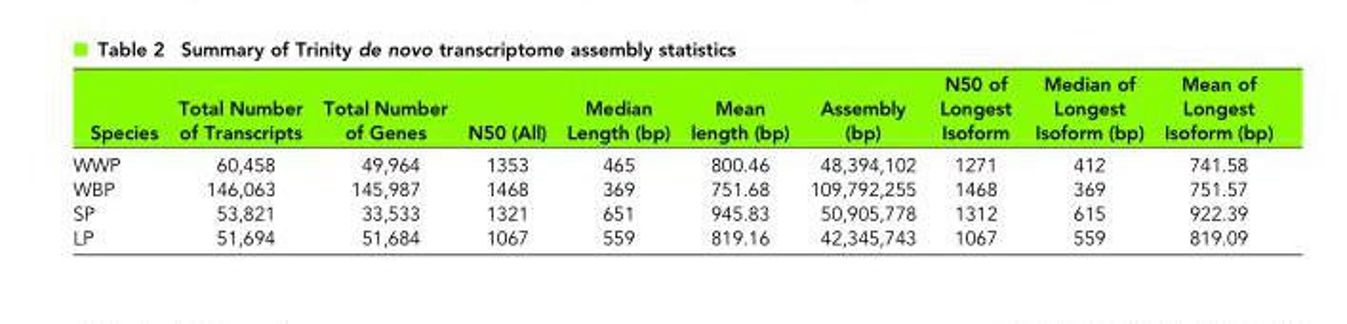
<table><thead><tr><td>Species</td><td>Total Number of Transcripts</td><td>Total Number of Genes</td><td>N50 (All)</td><td>Median Length (bp)</td><td>Mean length (bp)</td><td>Assembly (bp)</td><td>N50 of Longest Isoform</td><td>Median of Longest Isoform (bp)</td><td>Mean of Longest Isoform (bp)</td></tr></thead><tbody><tr><td>WWP</td><td>60,458</td><td>49,964</td><td>1353</td><td>465</td><td>800.46</td><td>48,394,102</td><td>1271</td><td>412</td><td>741.58</td></tr><tr><td>WBP</td><td>146,063</td><td>145,987</td><td>1468</td><td>369</td><td>751.68</td><td>109,792,255</td><td>1468</td><td>369</td><td>751.57</td></tr><tr><td>SP</td><td>53,821</td><td>33,533</td><td>1321</td><td>651</td><td>945.83</td><td>50,905,778</td><td>1312</td><td>615</td><td>922.39</td></tr><tr><td>LP</td><td>51,694</td><td>51,684</td><td>1067</td><td>559</td><td>819.16</td><td>42,345,743</td><td>1067</td><td>559</td><td>819.09</td></tr></tbody></table>